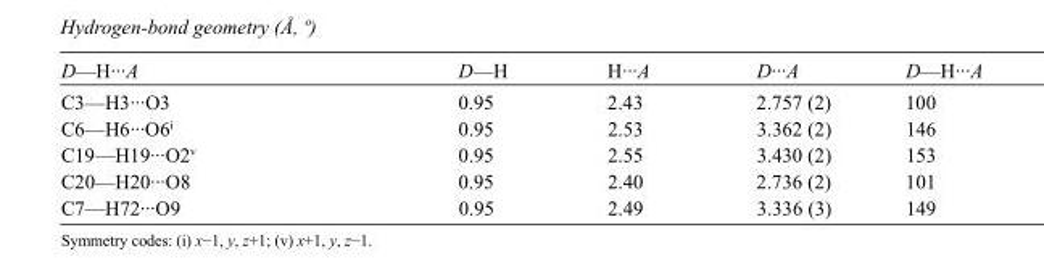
<table><tbody><tr><td>D—H···A</td><td>D—H</td><td>H···A</td><td>D···A</td><td>D—H···A</td></tr><tr><td>C3—H3···O3</td><td>0.95</td><td>2.43</td><td>2.757 (2)</td><td>100</td></tr><tr><td>C6—H6···O6<sup>i</sup></td><td>0.95</td><td>2.53</td><td>3.362 (2)</td><td>146</td></tr><tr><td>C19—H19···O2<sup>v</sup></td><td>0.95</td><td>2.55</td><td>3.430 (2)</td><td>153</td></tr><tr><td>C20—H20···O8</td><td>0.95</td><td>2.40</td><td>2.736 (2)</td><td>101</td></tr><tr><td>C7—H72···O9</td><td>0.95</td><td>2.49</td><td>3.336 (3)</td><td>149</td></tr></tbody></table>